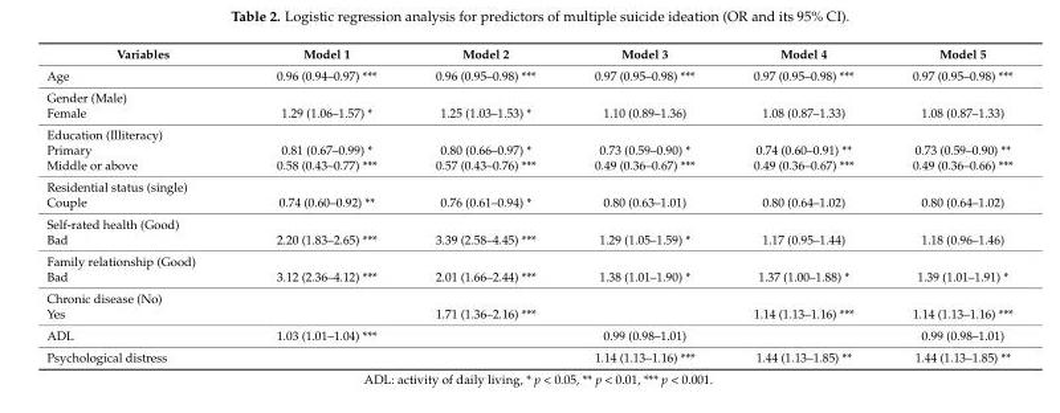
<table><thead><tr><td>Variables</td><td>Model 1</td><td>Model 2</td><td>Model 3</td><td>Model 4</td><td>Model 5</td></tr></thead><tbody><tr><td>Age</td><td>0.96 (0.94–0.97) ***</td><td>0.96 (0.95–0.98) ***</td><td>0.97 (0.95–0.98) ***</td><td>0.97 (0.95–0.98) ***</td><td>0.97 (0.95–0.98) ***</td></tr><tr><td colspan="6">Gender (Male)</td></tr><tr><td>Female</td><td>1.29 (1.06–1.57) *</td><td>1.25 (1.03–1.53) *</td><td>1.10 (0.89–1.36)</td><td>1.08 (0.87–1.33)</td><td>1.08 (0.87–1.33)</td></tr><tr><td colspan="6">Education (Illiteracy)</td></tr><tr><td>Primary</td><td>0.81 (0.67–0.99) *</td><td>0.80 (0.66–0.97) *</td><td>0.73 (0.59–0.90) *</td><td>0.74 (0.60–0.91) **</td><td>0.73 (0.59–0.90) **</td></tr><tr><td>Middle or above</td><td>0.58 (0.43–0.77) ***</td><td>0.57 (0.43–0.76) ***</td><td>0.49 (0.36–0.67) ***</td><td>0.49 (0.36–0.67) ***</td><td>0.49 (0.36–0.66) ***</td></tr><tr><td colspan="6">Residential status (single)</td></tr><tr><td>Couple</td><td>0.74 (0.60–0.92) **</td><td>0.76 (0.61–0.94) *</td><td>0.80 (0.63–1.01)</td><td>0.80 (0.64–1.02)</td><td>0.80 (0.64–1.02)</td></tr><tr><td colspan="6">Self-rated health (Good)</td></tr><tr><td>Bad</td><td>2.20 (1.83–2.65) ***</td><td>3.39 (2.58–4.45) ***</td><td>1.29 (1.05–1.59) *</td><td>1.17 (0.95–1.44)</td><td>1.18 (0.96–1.46)</td></tr><tr><td colspan="6">Family relationship (Good)</td></tr><tr><td>Bad</td><td>3.12 (2.36–4.12) ***</td><td>2.01 (1.66–2.44) ***</td><td>1.38 (1.01–1.90) *</td><td>1.37 (1.00–1.88) *</td><td>1.39 (1.01–1.91) *</td></tr><tr><td colspan="6">Chronic disease (No)</td></tr><tr><td>Yes</td><td></td><td>1.71 (1.36–2.16) ***</td><td></td><td>1.14 (1.13–1.16) ***</td><td>1.14 (1.13–1.16) ***</td></tr><tr><td>ADL</td><td>1.03 (1.01–1.04) ***</td><td></td><td>0.99 (0.98–1.01)</td><td></td><td>0.99 (0.98–1.01)</td></tr><tr><td colspan="2">Psychological distress</td><td></td><td>1.14 (1.13–1.16) ***</td><td>1.44 (1.13–1.85) **</td><td>1.44 (1.13–1.85) **</td></tr></tbody></table>